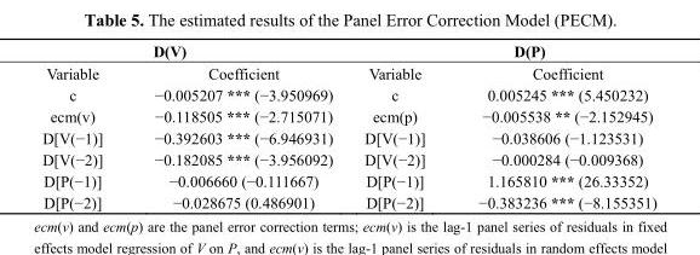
<table><thead><tr><td colspan="2">D(V)</td><td colspan="2">D(P)</td></tr><tr><td>Variable</td><td>Coefficient</td><td>Variable</td><td>Coefficient</td></tr></thead><tbody><tr><td>c</td><td>−0.005207 *** (−3.950969)</td><td>c</td><td>0.005245 *** (5.450232)</td></tr><tr><td>ecm(v)</td><td>−0.118505 *** (−2.715071)</td><td>ecm(p)</td><td>−0.005538 ** (−2.152945)</td></tr><tr><td>D[V(−1)]</td><td>−0.392603 *** (−6.946931)</td><td>D[V(−1)]</td><td>−0.038606 (−1.123531)</td></tr><tr><td>D[V(−2)]</td><td>−0.182085 *** (−3.956092)</td><td>D[V(−2)]</td><td>−0.000284 (−0.009368)</td></tr><tr><td>D[P(−1)]</td><td>−0.006660 (−0.111667)</td><td>D[P(−1)]</td><td>1.165810 *** (26.33352)</td></tr><tr><td>D[P(−2)]</td><td>−0.028675 (0.486901)</td><td>D[P(−2)]</td><td>−0.383236 *** (−8.155351)</td></tr></tbody></table>